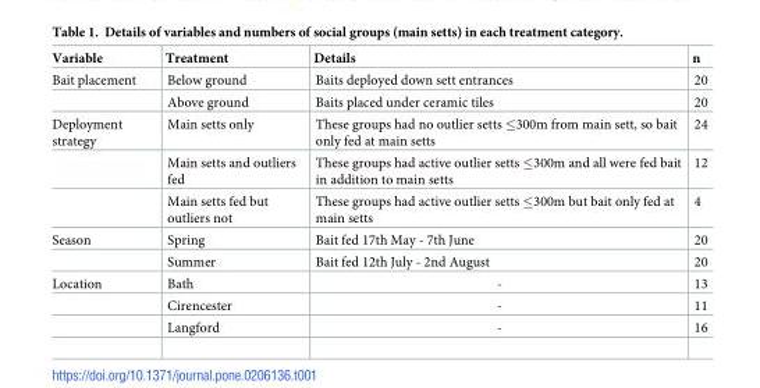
<table><thead><tr><td>Variable</td><td>Treatment</td><td>Details</td><td>n</td></tr></thead><tbody><tr><td rowspan="2">Bait placement</td><td>Below ground</td><td>Baits deployed down sett entrances</td><td>20</td></tr><tr><td>Above ground</td><td>Baits placed under ceramic tiles</td><td>20</td></tr><tr><td rowspan="3">Deployment strategy</td><td>Main setts only</td><td>These groups had no outlier setts ≤300m from main sett, so bait only fed at main setts</td><td>24</td></tr><tr><td>Main setts and outliers fed</td><td>These groups had active outlier setts ≤300m and all were fed bait in addition to main setts</td><td>12</td></tr><tr><td>Main setts fed but outliers not</td><td>These groups had active outlier setts ≤300m but bait only fed at main setts</td><td>4</td></tr><tr><td rowspan="2">Season</td><td>Spring</td><td>Bait fed 17th May - 7th June</td><td>20</td></tr><tr><td>Summer</td><td>Bait fed 12th July - 2nd August</td><td>20</td></tr><tr><td rowspan="3">Location</td><td>Bath</td><td>-</td><td>13</td></tr><tr><td>Cirencester</td><td>-</td><td>11</td></tr><tr><td>Langford</td><td>-</td><td>16</td></tr></tbody></table>